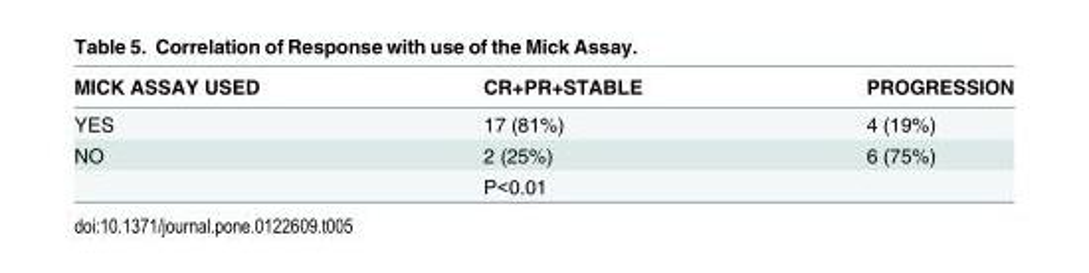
<table><thead><tr><td>MICK ASSAY USED</td><td>CR+PR+STABLE</td><td>PROGRESSION</td></tr></thead><tbody><tr><td>YES</td><td>17 (81%)</td><td>4 (19%)</td></tr><tr><td rowspan="2">NO</td><td>2 (25%)</td><td>6 (75%)</td></tr><tr><td>P&lt;0.01</td><td></td></tr></tbody></table>